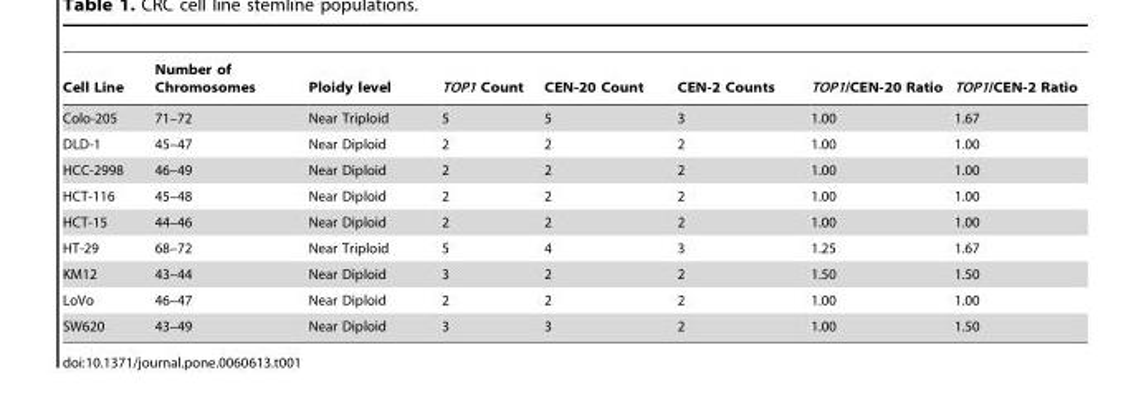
<table><thead><tr><td>Cell Line</td><td>Number of Chromosomes</td><td>Ploidy level</td><td>TOP1 Count</td><td>CEN-20 Count</td><td>CEN-2 Counts</td><td>TOP1/CEN-20 Ratio</td><td>TOP1/CEN-2 Ratio</td></tr></thead><tbody><tr><td>Colo-205</td><td>71–72</td><td>Near Triploid</td><td>5</td><td>5</td><td>3</td><td>1.00</td><td>1.67</td></tr><tr><td>DLD-1</td><td>45–47</td><td>Near Diploid</td><td>2</td><td>2</td><td>2</td><td>1.00</td><td>1.00</td></tr><tr><td>HCC-2998</td><td>46–49</td><td>Near Diploid</td><td>2</td><td>2</td><td>2</td><td>1.00</td><td>1.00</td></tr><tr><td>HCT-116</td><td>45–48</td><td>Near Diploid</td><td>2</td><td>2</td><td>2</td><td>1.00</td><td>1.00</td></tr><tr><td>HCT-15</td><td>44–46</td><td>Near Diploid</td><td>2</td><td>2</td><td>2</td><td>1.00</td><td>1.00</td></tr><tr><td>HT-29</td><td>68–72</td><td>Near Triploid</td><td>5</td><td>4</td><td>3</td><td>1.25</td><td>1.67</td></tr><tr><td>KM12</td><td>43–44</td><td>Near Diploid</td><td>3</td><td>2</td><td>2</td><td>1.50</td><td>1.50</td></tr><tr><td>LoVo</td><td>46–47</td><td>Near Diploid</td><td>2</td><td>2</td><td>2</td><td>1.00</td><td>1.00</td></tr><tr><td>SW620</td><td>43–49</td><td>Near Diploid</td><td>3</td><td>3</td><td>2</td><td>1.00</td><td>1.50</td></tr></tbody></table>